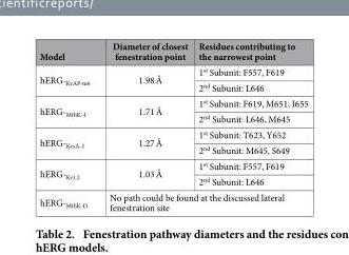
<table><thead><tr><td>Model</td><td>Diameter of closest fenestration point</td><td>Residues contributing to the narrowest point</td></tr></thead><tbody><tr><td rowspan="2">hERG-<sub>KvAP-m6</sub></td><td rowspan="2">1.98 Å</td><td>1<sup>st</sup> Subunit: F557, F619</td></tr><tr><td>2<sup>nd</sup> Subunit: L646</td></tr><tr><td rowspan="2">hERG-<sub>MthK–I</sub></td><td rowspan="2">1.71 Å</td><td>1<sup>st</sup> Subunit: F619, M651, I655</td></tr><tr><td>2<sup>nd</sup> Subunit: L646, M645</td></tr><tr><td rowspan="2">hERG-<sub>KcsA–I</sub></td><td rowspan="2">1.27 Å</td><td>1<sup>st</sup> Subunit: T623, Y652</td></tr><tr><td>2<sup>nd</sup> Subunit: M645, S649</td></tr><tr><td rowspan="2">hERG-<sub>Kv1.2</sub></td><td rowspan="2">1.03 Å</td><td>1<sup>st</sup> Subunit: F557, F619</td></tr><tr><td>2<sup>nd</sup> Subunit: L646</td></tr><tr><td>hERG-<sub>MthK-O</sub></td><td colspan="2">No path could be found at the discussed lateral fenestration site</td></tr></tbody></table>